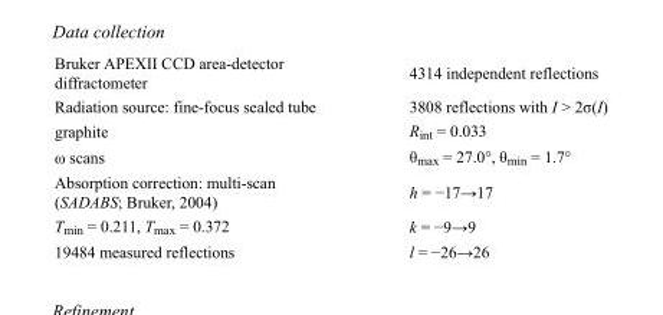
<table><tbody><tr><td>Bruker APEXII CCD area-detector diffractometer</td><td>4314 independent reflections</td></tr><tr><td>Radiation source: fine-focus sealed tube</td><td>3808 reflections with I &gt; 2σ(I)</td></tr><tr><td>graphite</td><td>R<sub>int</sub> = 0.033</td></tr><tr><td>ω scans</td><td>θ<sub>max</sub> = 27.0°, θ<sub>min</sub> = 1.7°</td></tr><tr><td>Absorption correction: multi-scan (SADABS; Bruker, 2004)</td><td>h = −17→17</td></tr><tr><td>T<sub>min</sub> = 0.211, T<sub>max</sub> = 0.372</td><td>k = −9→9</td></tr><tr><td>19484 measured reflections</td><td>l = −26→26</td></tr></tbody></table>